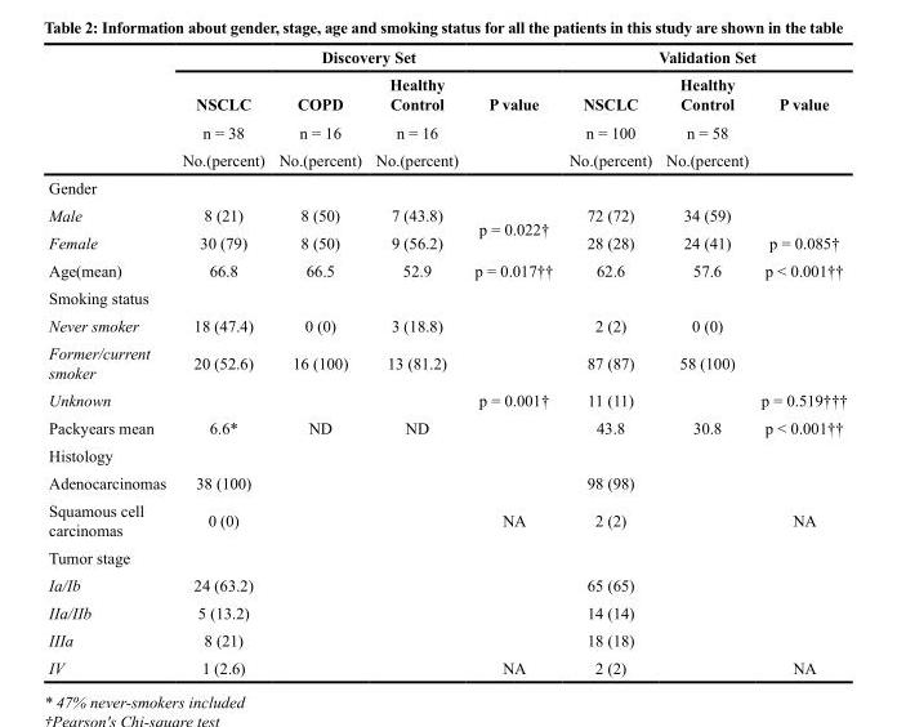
<table><thead><tr><td rowspan="3"></td><td colspan="4">Discovery Set</td><td colspan="3">Validation Set</td></tr><tr><td rowspan="2">NSCLC n = 38 No.(percent)</td><td rowspan="2">COPD n = 16 No.(percent)</td><td rowspan="2">Healthy Control n = 16 No.(percent)</td><td rowspan="2">P value</td><td rowspan="2">NSCLC n = 100 No.(percent)</td><td rowspan="2">Healthy Control n = 58 No.(percent)</td><td rowspan="2">P value</td></tr><tr></tr></thead><tbody><tr><td colspan="8">Gender</td></tr><tr><td>Male</td><td>8 (21)</td><td>8 (50)</td><td>7 (43.8)</td><td rowspan="2">p = 0.022†</td><td>72 (72)</td><td>34 (59)</td><td></td></tr><tr><td>Female</td><td>30 (79)</td><td>8 (50)</td><td>9 (56.2)</td><td>28 (28)</td><td>24 (41)</td><td>p = 0.085†</td></tr><tr><td>Age(mean)</td><td>66.8</td><td>66.5</td><td>52.9</td><td>p = 0.017††</td><td>62.6</td><td>57.6</td><td>p &lt; 0.001††</td></tr><tr><td colspan="8">Smoking status</td></tr><tr><td>Never smoker</td><td>18 (47.4)</td><td>0 (0)</td><td>3 (18.8)</td><td></td><td>2 (2)</td><td>0 (0)</td><td></td></tr><tr><td>Former/current smoker</td><td>20 (52.6)</td><td>16 (100)</td><td>13 (81.2)</td><td></td><td>87 (87)</td><td>58 (100)</td><td></td></tr><tr><td>Unknown</td><td></td><td></td><td></td><td>p = 0.001†</td><td>11 (11)</td><td></td><td>p = 0.519†††</td></tr><tr><td>Packyears mean</td><td>6.6*</td><td>ND</td><td>ND</td><td></td><td>43.8</td><td>30.8</td><td>p &lt; 0.001††</td></tr><tr><td colspan="8">Histology</td></tr><tr><td>Adenocarcinomas</td><td>38 (100)</td><td></td><td></td><td></td><td>98 (98)</td><td></td><td></td></tr><tr><td>Squamous cell carcinomas</td><td>0 (0)</td><td></td><td></td><td>NA</td><td>2 (2)</td><td></td><td>NA</td></tr><tr><td colspan="8">Tumor stage</td></tr><tr><td>Ia/Ib</td><td>24 (63.2)</td><td></td><td></td><td></td><td>65 (65)</td><td></td><td></td></tr><tr><td>IIa/IIb</td><td>5 (13.2)</td><td></td><td></td><td></td><td>14 (14)</td><td></td><td></td></tr><tr><td>IIIa</td><td>8 (21)</td><td></td><td></td><td></td><td>18 (18)</td><td></td><td></td></tr><tr><td>IV</td><td>1 (2.6)</td><td></td><td></td><td>NA</td><td>2 (2)</td><td></td><td>NA</td></tr></tbody></table>